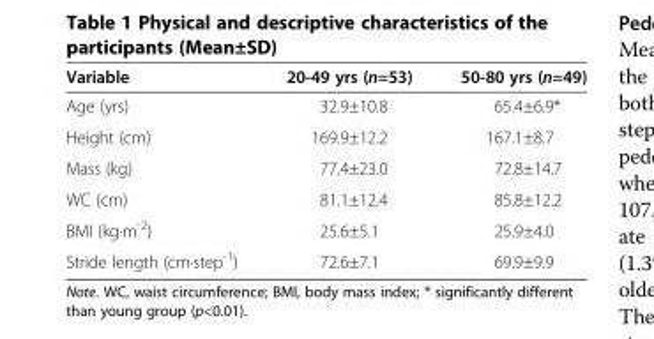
<table><thead><tr><td>Variable</td><td>20-49 yrs (n=53)</td><td>50-80 yrs (n=49)</td></tr></thead><tbody><tr><td>Age (yrs)</td><td>32.9±10.8</td><td>65.4±6.9*</td></tr><tr><td>Height (cm)</td><td>169.9±12.2</td><td>167.1±8.7</td></tr><tr><td>Mass (kg)</td><td>77.4±23.0</td><td>72.8±14.7</td></tr><tr><td>WC (cm)</td><td>81.1±12.4</td><td>85.8±12.2</td></tr><tr><td>BMI (kg·m<sup>-2</sup>)</td><td>25.6±5.1</td><td>25.9±4.0</td></tr><tr><td>Stride length (cm·step<sup>-1</sup>)</td><td>72.6±7.1</td><td>69.9±9.9</td></tr></tbody></table>